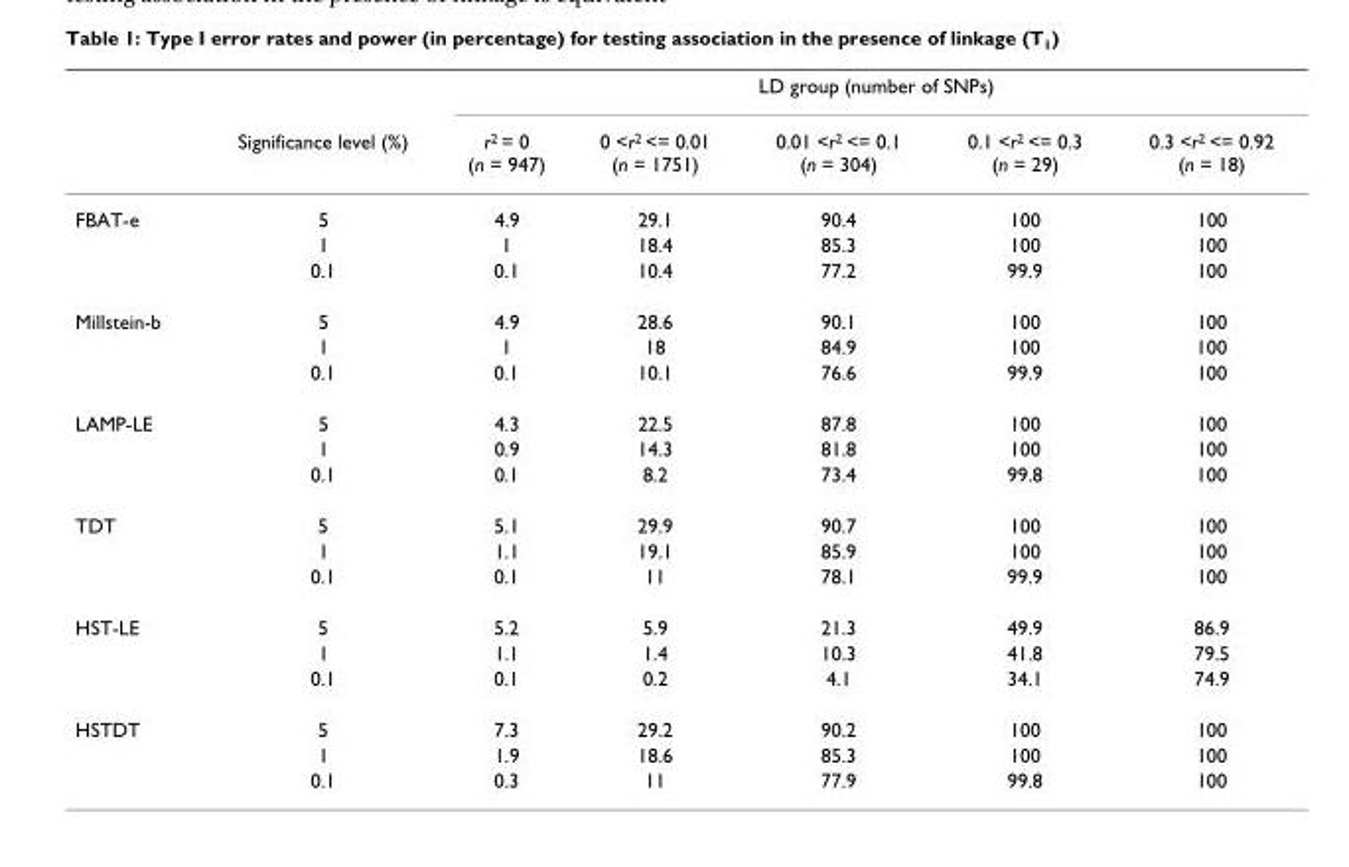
<table><thead><tr><td rowspan="2"></td><td rowspan="2">Significance level (%)</td><td colspan="5">LD group (number of SNPs)</td></tr><tr><td>r<sup>2</sup> = 0 (n = 947)</td><td>0 &lt;r<sup>2</sup> &lt;= 0.01 (n = 1751)</td><td>0.01 &lt;r<sup>2</sup> &lt;= 0.1 (n = 304)</td><td>0.1 &lt;r<sup>2</sup> &lt;= 0.3 (n = 29)</td><td>0.3 &lt;r<sup>2</sup> &lt;= 0.92 (n = 18)</td></tr></thead><tbody><tr><td rowspan="3">FBAT-e</td><td>5</td><td>4.9</td><td>29.1</td><td>90.4</td><td>100</td><td>100</td></tr><tr><td>1</td><td>1</td><td>18.4</td><td>85.3</td><td>100</td><td>100</td></tr><tr><td>0.1</td><td>0.1</td><td>10.4</td><td>77.2</td><td>99.9</td><td>100</td></tr><tr><td rowspan="3">Millstein-b</td><td>5</td><td>4.9</td><td>28.6</td><td>90.1</td><td>100</td><td>100</td></tr><tr><td>1</td><td>1</td><td>18</td><td>84.9</td><td>100</td><td>100</td></tr><tr><td>0.1</td><td>0.1</td><td>10.1</td><td>76.6</td><td>99.9</td><td>100</td></tr><tr><td rowspan="3">LAMP-LE</td><td>5</td><td>4.3</td><td>22.5</td><td>87.8</td><td>100</td><td>100</td></tr><tr><td>1</td><td>0.9</td><td>14.3</td><td>81.8</td><td>100</td><td>100</td></tr><tr><td>0.1</td><td>0.1</td><td>8.2</td><td>73.4</td><td>99.8</td><td>100</td></tr><tr><td rowspan="3">TDT</td><td>5</td><td>5.1</td><td>29.9</td><td>90.7</td><td>100</td><td>100</td></tr><tr><td>1</td><td>1.1</td><td>19.1</td><td>85.9</td><td>100</td><td>100</td></tr><tr><td>0.1</td><td>0.1</td><td>11</td><td>78.1</td><td>99.9</td><td>100</td></tr><tr><td rowspan="3">HST-LE</td><td>5</td><td>5.2</td><td>5.9</td><td>21.3</td><td>49.9</td><td>86.9</td></tr><tr><td>1</td><td>1.1</td><td>1.4</td><td>10.3</td><td>41.8</td><td>79.5</td></tr><tr><td>0.1</td><td>0.1</td><td>0.2</td><td>4.1</td><td>34.1</td><td>74.9</td></tr><tr><td rowspan="3">HSTDT</td><td>5</td><td>7.3</td><td>29.2</td><td>90.2</td><td>100</td><td>100</td></tr><tr><td>1</td><td>1.9</td><td>18.6</td><td>85.3</td><td>100</td><td>100</td></tr><tr><td>0.1</td><td>0.3</td><td>11</td><td>77.9</td><td>99.8</td><td>100</td></tr></tbody></table>